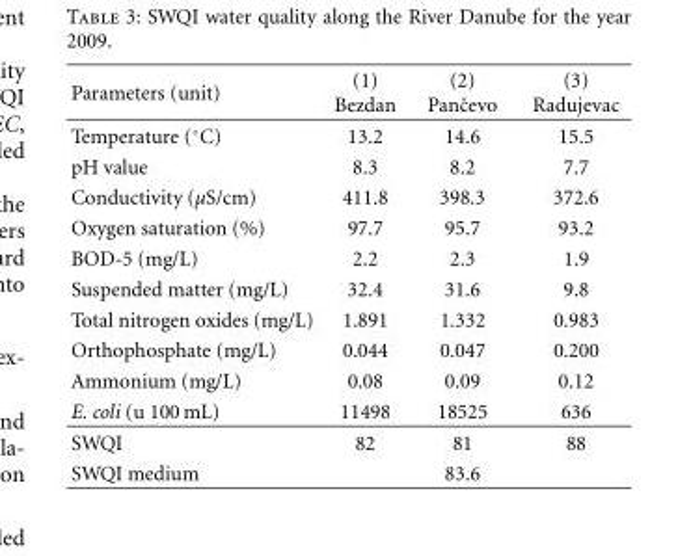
<table><thead><tr><td>Parameters (unit)</td><td>(1) Bezdan</td><td>(2) Panˇcevo</td><td>(3) Radujevac</td></tr></thead><tbody><tr><td>Temperature (◦C)</td><td>13.2</td><td>14.6</td><td>15.5</td></tr><tr><td>pH value</td><td>8.3</td><td>8.2</td><td>7.7</td></tr><tr><td>Conductivity (µS/cm)</td><td>411.8</td><td>398.3</td><td>372.6</td></tr><tr><td>Oxygen saturation (%)</td><td>97.7</td><td>95.7</td><td>93.2</td></tr><tr><td>BOD-5 (mg/L)</td><td>2.2</td><td>2.3</td><td>1.9</td></tr><tr><td>Suspended matter (mg/L)</td><td>32.4</td><td>31.6</td><td>9.8</td></tr><tr><td>Total nitrogen oxides (mg/L)</td><td>1.891</td><td>1.332</td><td>0.983</td></tr><tr><td>Orthophosphate (mg/L)</td><td>0.044</td><td>0.047</td><td>0.200</td></tr><tr><td>Ammonium (mg/L)</td><td>0.08</td><td>0.09</td><td>0.12</td></tr><tr><td>E. coli (u 100 mL)</td><td>11498</td><td>18525</td><td>636</td></tr><tr><td>SWQI</td><td>82</td><td>81</td><td>88</td></tr><tr><td>SWQI medium</td><td></td><td>83.6</td><td></td></tr></tbody></table>